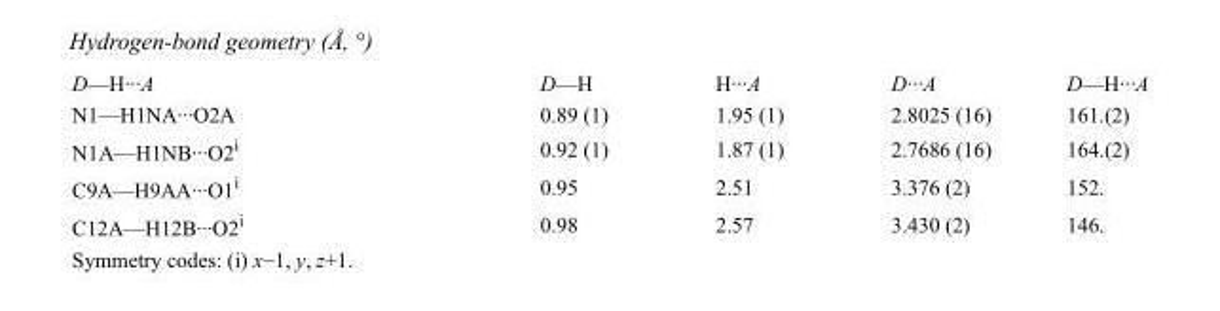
<table><tbody><tr><td>D—H···A</td><td>D—H</td><td>H···A</td><td>D···A</td><td>D—H···A</td></tr><tr><td>N1—H1NA···O2A</td><td>0.89 (1)</td><td>1.95 (1)</td><td>2.8025 (16)</td><td>161.(2)</td></tr><tr><td>N1A—H1NB···O2<sup>i</sup></td><td>0.92 (1)</td><td>1.87 (1)</td><td>2.7686 (16)</td><td>164.(2)</td></tr><tr><td>C9A—H9AA···O1<sup>i</sup></td><td>0.95</td><td>2.51</td><td>3.376 (2)</td><td>152.</td></tr><tr><td>C12A—H12B···O2<sup>i</sup></td><td>0.98</td><td>2.57</td><td>3.430 (2)</td><td>146.</td></tr></tbody></table>